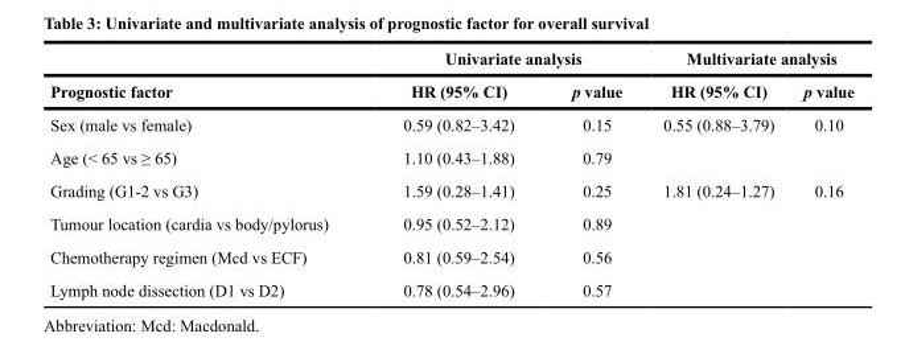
<table><thead><tr><td rowspan="2">Prognostic factor</td><td colspan="2">Univariate analysis</td><td colspan="2">Multivariate analysis</td></tr><tr><td>HR (95% CI)</td><td>p value</td><td>HR (95% CI)</td><td>p value</td></tr></thead><tbody><tr><td>Sex (male vs female)</td><td>0.59 (0.82–3.42)</td><td>0.15</td><td>0.55 (0.88–3.79)</td><td>0.10</td></tr><tr><td>Age (&lt; 65 vs ≥ 65)</td><td>1.10 (0.43–1.88)</td><td>0.79</td><td></td><td></td></tr><tr><td>Grading (G1-2 vs G3)</td><td>1.59 (0.28–1.41)</td><td>0.25</td><td>1.81 (0.24–1.27)</td><td>0.16</td></tr><tr><td>Tumour location (cardia vs body/pylorus)</td><td>0.95 (0.52–2.12)</td><td>0.89</td><td></td><td></td></tr><tr><td>Chemotherapy regimen (Mcd vs ECF)</td><td>0.81 (0.59–2.54)</td><td>0.56</td><td></td><td></td></tr><tr><td>Lymph node dissection (D1 vs D2)</td><td>0.78 (0.54–2.96)</td><td>0.57</td><td></td><td></td></tr></tbody></table>